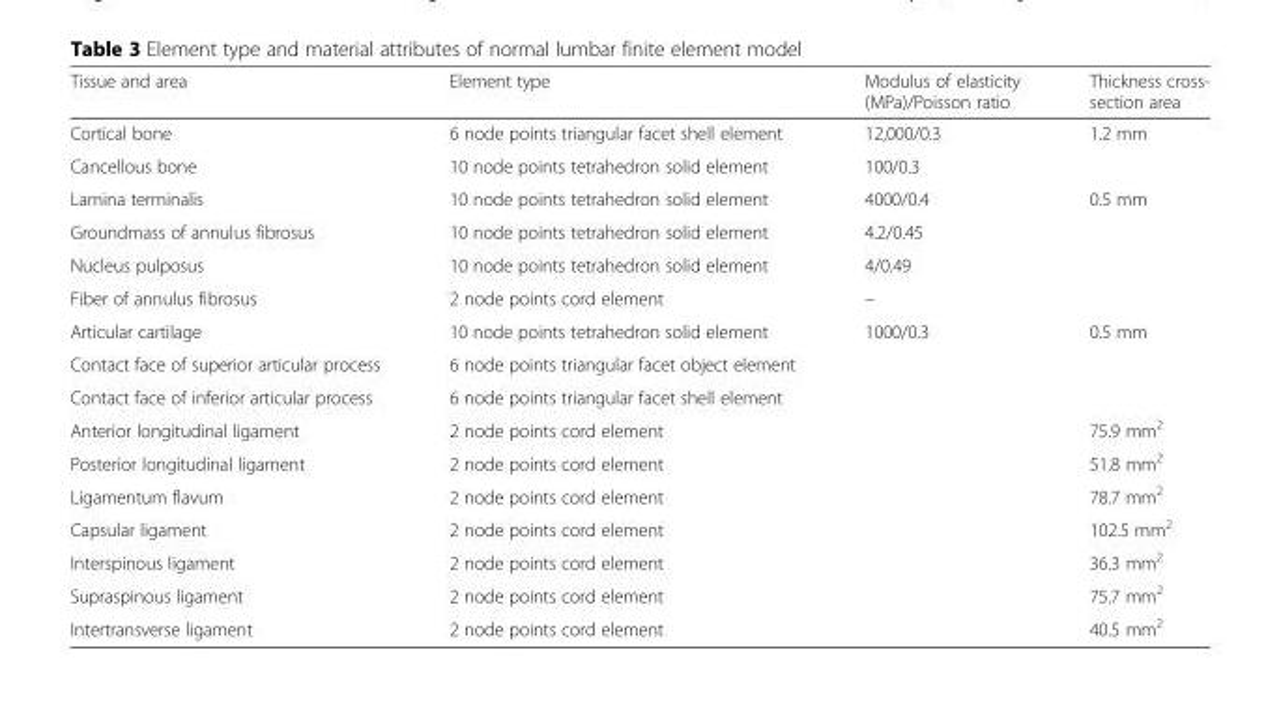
<table><thead><tr><td>Tissue and area</td><td>Element type</td><td>Modulus of elasticity (MPa)/Poisson ratio</td><td>Thickness cross- section area</td></tr></thead><tbody><tr><td>Cortical bone</td><td>6 node points triangular facet shell element</td><td>12,000/0.3</td><td>1.2 mm</td></tr><tr><td>Cancellous bone</td><td>10 node points tetrahedron solid element</td><td>100/0.3</td><td></td></tr><tr><td>Lamina terminalis</td><td>10 node points tetrahedron solid element</td><td>4000/0.4</td><td>0.5 mm</td></tr><tr><td>Groundmass of annulus fibrosus</td><td>10 node points tetrahedron solid element</td><td>4.2/0.45</td><td></td></tr><tr><td>Nucleus pulposus</td><td>10 node points tetrahedron solid element</td><td>4/0.49</td><td></td></tr><tr><td>Fiber of annulus fibrosus</td><td>2 node points cord element</td><td>–</td><td></td></tr><tr><td>Articular cartilage</td><td>10 node points tetrahedron solid element</td><td>1000/0.3</td><td>0.5 mm</td></tr><tr><td>Contact face of superior articular process</td><td>6 node points triangular facet object element</td><td></td><td></td></tr><tr><td>Contact face of inferior articular process</td><td>6 node points triangular facet shell element</td><td></td><td></td></tr><tr><td>Anterior longitudinal ligament</td><td>2 node points cord element</td><td></td><td>75.9 mm<sup>2</sup></td></tr><tr><td>Posterior longitudinal ligament</td><td>2 node points cord element</td><td></td><td>51.8 mm<sup>2</sup></td></tr><tr><td>Ligamentum flavum</td><td>2 node points cord element</td><td></td><td>78.7 mm<sup>2</sup></td></tr><tr><td>Capsular ligament</td><td>2 node points cord element</td><td></td><td>102.5 mm<sup>2</sup></td></tr><tr><td>Interspinous ligament</td><td>2 node points cord element</td><td></td><td>36.3 mm<sup>2</sup></td></tr><tr><td>Supraspinous ligament</td><td>2 node points cord element</td><td></td><td>75.7 mm<sup>2</sup></td></tr><tr><td>Intertransverse ligament</td><td>2 node points cord element</td><td></td><td>40.5 mm<sup>2</sup></td></tr></tbody></table>